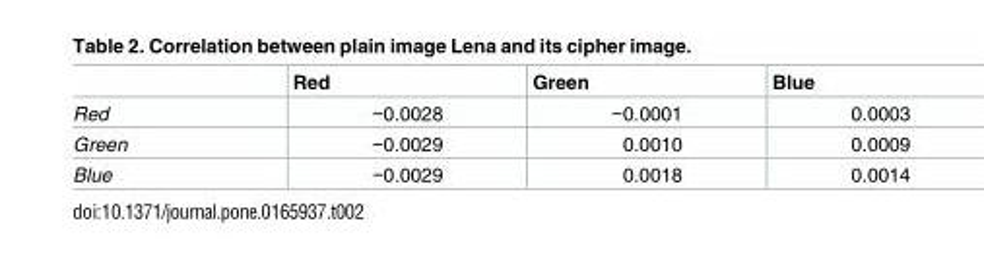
<table><thead><tr><td></td><td>Red</td><td>Green</td><td>Blue</td></tr></thead><tbody><tr><td>Red</td><td>−0.0028</td><td>−0.0001</td><td>0.0003</td></tr><tr><td>Green</td><td>−0.0029</td><td>0.0010</td><td>0.0009</td></tr><tr><td>Blue</td><td>−0.0029</td><td>0.0018</td><td>0.0014</td></tr></tbody></table>